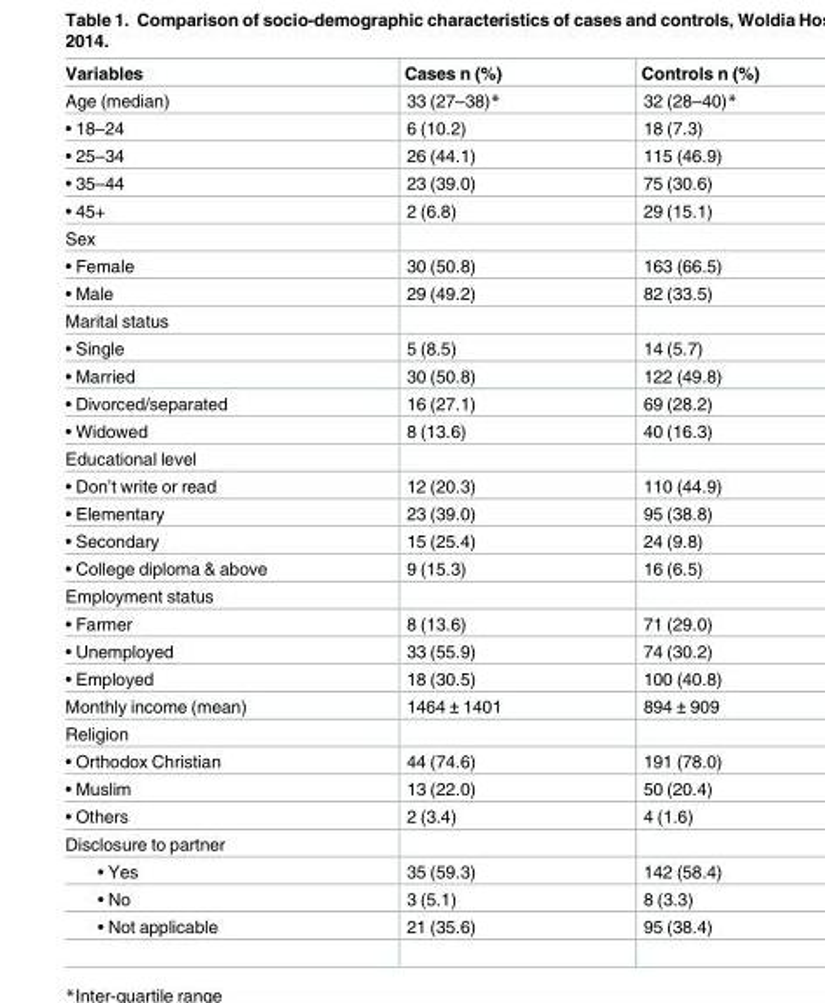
<table><thead><tr><td>Variables</td><td>Cases n (%)</td><td>Controls n (%)</td></tr></thead><tbody><tr><td>Age (median)</td><td>33 (27–38)*</td><td>32 (28–40)*</td></tr><tr><td>• 18–24</td><td>6 (10.2)</td><td>18 (7.3)</td></tr><tr><td>• 25–34</td><td>26 (44.1)</td><td>115 (46.9)</td></tr><tr><td>• 35–44</td><td>23 (39.0)</td><td>75 (30.6)</td></tr><tr><td>• 45+</td><td>2 (6.8)</td><td>29 (15.1)</td></tr><tr><td colspan="3">Sex</td></tr><tr><td>• Female</td><td>30 (50.8)</td><td>163 (66.5)</td></tr><tr><td>• Male</td><td>29 (49.2)</td><td>82 (33.5)</td></tr><tr><td colspan="3">Marital status</td></tr><tr><td>• Single</td><td>5 (8.5)</td><td>14 (5.7)</td></tr><tr><td>• Married</td><td>30 (50.8)</td><td>122 (49.8)</td></tr><tr><td>• Divorced/separated</td><td>16 (27.1)</td><td>69 (28.2)</td></tr><tr><td>• Widowed</td><td>8 (13.6)</td><td>40 (16.3)</td></tr><tr><td colspan="3">Educational level</td></tr><tr><td>• Don’t write or read</td><td>12 (20.3)</td><td>110 (44.9)</td></tr><tr><td>• Elementary</td><td>23 (39.0)</td><td>95 (38.8)</td></tr><tr><td>• Secondary</td><td>15 (25.4)</td><td>24 (9.8)</td></tr><tr><td>• College diploma &amp; above</td><td>9 (15.3)</td><td>16 (6.5)</td></tr><tr><td colspan="3">Employment status</td></tr><tr><td>• Farmer</td><td>8 (13.6)</td><td>71 (29.0)</td></tr><tr><td>• Unemployed</td><td>33 (55.9)</td><td>74 (30.2)</td></tr><tr><td>• Employed</td><td>18 (30.5)</td><td>100 (40.8)</td></tr><tr><td>Monthly income (mean)</td><td>1464 ± 1401</td><td>894 ± 909</td></tr><tr><td colspan="3">Religion</td></tr><tr><td>• Orthodox Christian</td><td>44 (74.6)</td><td>191 (78.0)</td></tr><tr><td>• Muslim</td><td>13 (22.0)</td><td>50 (20.4)</td></tr><tr><td>• Others</td><td>2 (3.4)</td><td>4 (1.6)</td></tr><tr><td colspan="3">Disclosure to partner</td></tr><tr><td>• Yes</td><td>35 (59.3)</td><td>142 (58.4)</td></tr><tr><td>• No</td><td>3 (5.1)</td><td>8 (3.3)</td></tr><tr><td>• Not applicable</td><td>21 (35.6)</td><td>95 (38.4)</td></tr></tbody></table>